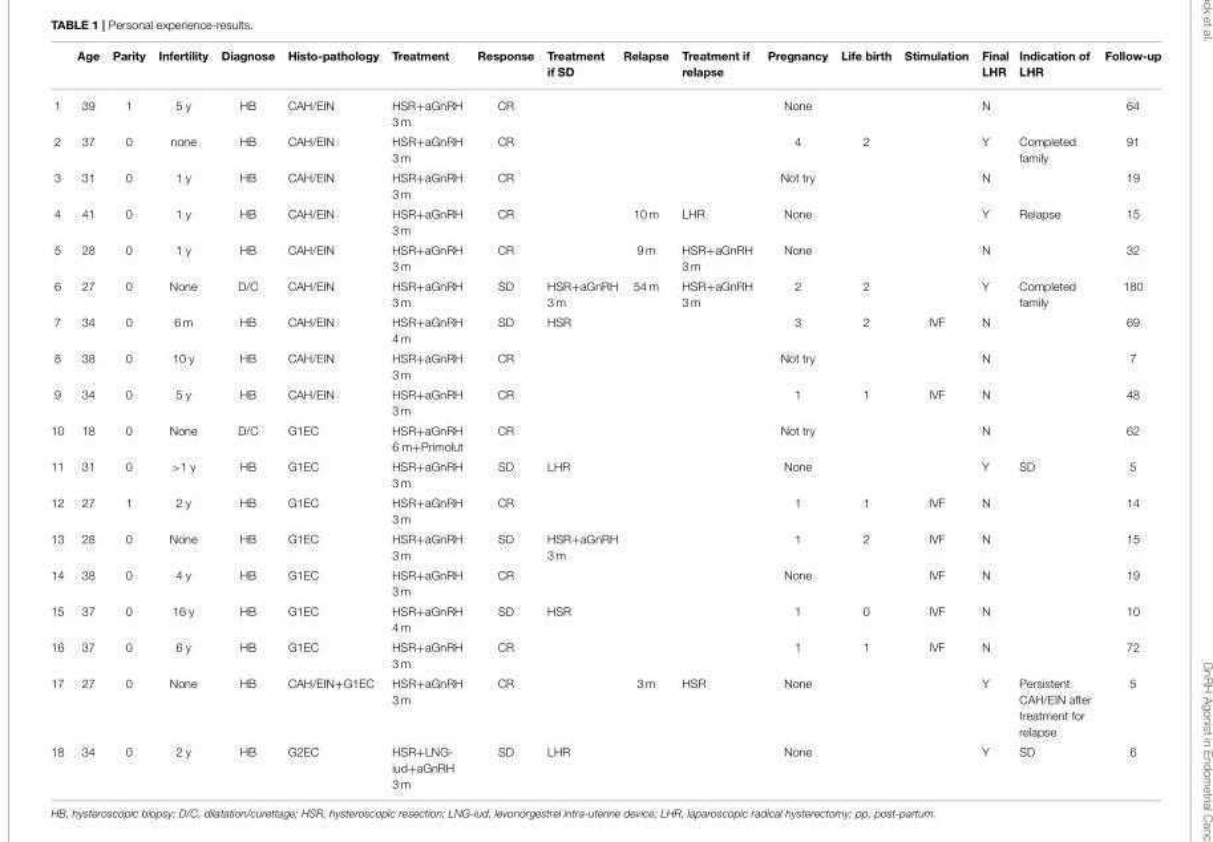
<table><thead><tr><td></td><td>Age</td><td>Parity</td><td>Infertility</td><td>Diagnose</td><td>Histo-pathology</td><td>Treatment</td><td>Response</td><td>Treatment if SD</td><td>Relapse</td><td>Treatment if relapse</td><td>Pregnancy</td><td>Life birth</td><td>Stimulation</td><td>Final LHR</td><td>Indication of LHR</td><td>Follow-up</td></tr></thead><tbody><tr><td>1</td><td>39</td><td>1</td><td>5 y</td><td>HB</td><td>CAH/EIN</td><td>HSR+aGnRH 3 m</td><td>CR</td><td></td><td></td><td></td><td>None</td><td></td><td></td><td>N</td><td></td><td>64</td></tr><tr><td>2</td><td>37</td><td>0</td><td>none</td><td>HB</td><td>CAH/EIN</td><td>HSR+aGnRH 3 m</td><td>CR</td><td></td><td></td><td></td><td>4</td><td>2</td><td></td><td>Y</td><td>Completed family</td><td>91</td></tr><tr><td>3</td><td>31</td><td>0</td><td>1 y</td><td>HB</td><td>CAH/EIN</td><td>HSR+aGnRH 3 m</td><td>CR</td><td></td><td></td><td></td><td>Not try</td><td></td><td></td><td>N</td><td></td><td>19</td></tr><tr><td>4</td><td>41</td><td>0</td><td>1 y</td><td>HB</td><td>CAH/EIN</td><td>HSR+aGnRH 3 m</td><td>CR</td><td></td><td>10 m</td><td>LHR</td><td>None</td><td></td><td></td><td>Y</td><td>Relapse</td><td>15</td></tr><tr><td>5</td><td>28</td><td>0</td><td>1 y</td><td>HB</td><td>CAH/EIN</td><td>HSR+aGnRH 3 m</td><td>CR</td><td></td><td>9 m</td><td>HSR+aGnRH 3 m</td><td>None</td><td></td><td></td><td>N</td><td></td><td>32</td></tr><tr><td>6</td><td>27</td><td>0</td><td>None</td><td>D/C</td><td>CAH/EIN</td><td>HSR+aGnRH 3 m</td><td>SD</td><td>HSR+aGnRH 3 m</td><td>54 m</td><td>HSR+aGnRH 3 m</td><td>2</td><td>2</td><td></td><td>Y</td><td>Completed family</td><td>180</td></tr><tr><td>7</td><td>34</td><td>0</td><td>6 m</td><td>HB</td><td>CAH/EIN</td><td>HSR+aGnRH 4 m</td><td>SD</td><td>HSR</td><td></td><td></td><td>3</td><td>2</td><td>IVF</td><td>N</td><td></td><td>69</td></tr><tr><td>8</td><td>38</td><td>0</td><td>10 y</td><td>HB</td><td>CAH/EIN</td><td>HSR+aGnRH 3 m</td><td>CR</td><td></td><td></td><td></td><td>Not try</td><td></td><td></td><td>N</td><td></td><td>7</td></tr><tr><td>9</td><td>34</td><td>0</td><td>5 y</td><td>HB</td><td>CAH/EIN</td><td>HSR+aGnRH 3 m</td><td>CR</td><td></td><td></td><td></td><td>1</td><td>1</td><td>IVF</td><td>N</td><td></td><td>48</td></tr><tr><td>10</td><td>18</td><td>0</td><td>None</td><td>D/C</td><td>G1EC</td><td>HSR+aGnRH 6 m+Primolut</td><td>CR</td><td></td><td></td><td></td><td>Not try</td><td></td><td></td><td>N</td><td></td><td>62</td></tr><tr><td>11</td><td>31</td><td>0</td><td>&gt;1 y</td><td>HB</td><td>G1EC</td><td>HSR+aGnRH 3 m</td><td>SD</td><td>LHR</td><td></td><td></td><td>None</td><td></td><td></td><td>Y</td><td>SD</td><td>5</td></tr><tr><td>12</td><td>27</td><td>1</td><td>2 y</td><td>HB</td><td>G1EC</td><td>HSR+aGnRH 3 m</td><td>CR</td><td></td><td></td><td></td><td>1</td><td>1</td><td>IVF</td><td>N</td><td></td><td>14</td></tr><tr><td>13</td><td>28</td><td>0</td><td>None</td><td>HB</td><td>G1EC</td><td>HSR+aGnRH 3 m</td><td>SD</td><td>HSR+aGnRH 3 m</td><td></td><td></td><td>1</td><td>2</td><td>IVF</td><td>N</td><td></td><td>15</td></tr><tr><td>14</td><td>38</td><td>0</td><td>4 y</td><td>HB</td><td>G1EC</td><td>HSR+aGnRH 3 m</td><td>CR</td><td></td><td></td><td></td><td>None</td><td></td><td>IVF</td><td>N</td><td></td><td>19</td></tr><tr><td>15</td><td>37</td><td>0</td><td>16 y</td><td>HB</td><td>G1EC</td><td>HSR+aGnRH 4 m</td><td>SD</td><td>HSR</td><td></td><td></td><td>1</td><td>0</td><td>IVF</td><td>N</td><td></td><td>10</td></tr><tr><td>16</td><td>37</td><td>0</td><td>6 y</td><td>HB</td><td>G1EC</td><td>HSR+aGnRH 3 m</td><td>CR</td><td></td><td></td><td></td><td>1</td><td>1</td><td>IVF</td><td>N</td><td></td><td>72</td></tr><tr><td>17</td><td>27</td><td>0</td><td>None</td><td>HB</td><td>CAH/EIN+G1EC</td><td>HSR+aGnRH 3 m</td><td>CR</td><td></td><td>3 m</td><td>HSR</td><td>None</td><td></td><td></td><td>Y</td><td>Persistent CAH/EIN after treatment for relapse</td><td>5</td></tr><tr><td>18</td><td>34</td><td>0</td><td>2 y</td><td>HB</td><td>G2EC</td><td>HSR+LNG- iud+aGnRH 3 m</td><td>SD</td><td>LHR</td><td></td><td></td><td>None</td><td></td><td></td><td>Y</td><td>SD</td><td>6</td></tr></tbody></table>